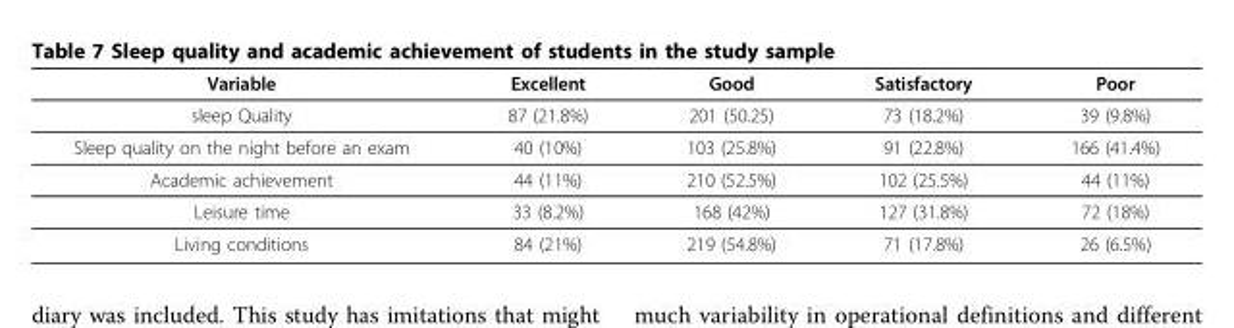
<table><thead><tr><td>Variable</td><td>Excellent</td><td>Good</td><td>Satisfactory</td><td>Poor</td></tr></thead><tbody><tr><td>sleep Quality</td><td>87 (21.8%)</td><td>201 (50.25)</td><td>73 (18.2%)</td><td>39 (9.8%)</td></tr><tr><td>Sleep quality on the night before an exam</td><td>40 (10%)</td><td>103 (25.8%)</td><td>91 (22.8%)</td><td>166 (41.4%)</td></tr><tr><td>Academic achievement</td><td>44 (11%)</td><td>210 (52.5%)</td><td>102 (25.5%)</td><td>44 (11%)</td></tr><tr><td>Leisure time</td><td>33 (8.2%)</td><td>168 (42%)</td><td>127 (31.8%)</td><td>72 (18%)</td></tr><tr><td>Living conditions</td><td>84 (21%)</td><td>219 (54.8%)</td><td>71 (17.8%)</td><td>26 (6.5%)</td></tr></tbody></table>